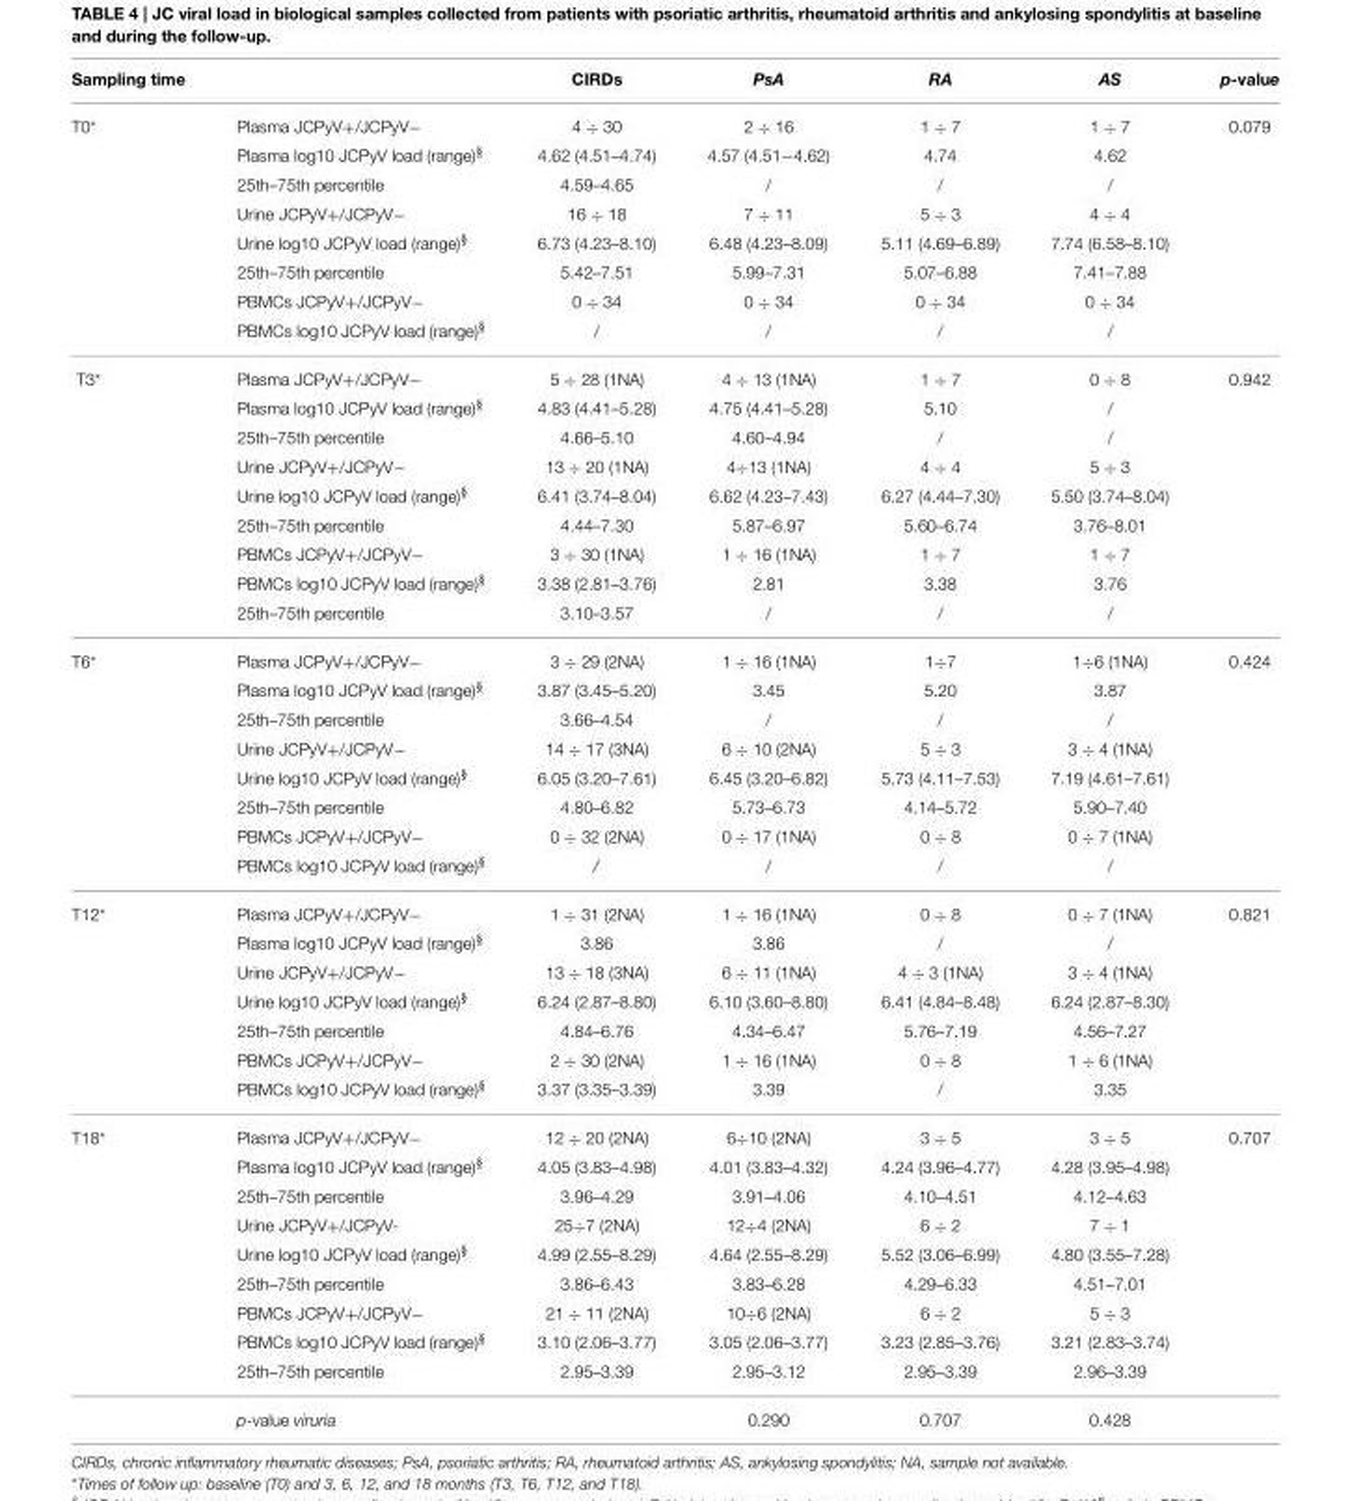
<table><thead><tr><td>Sampling time</td><td></td><td>CIRDs</td><td>PsA</td><td>RA</td><td>AS</td><td>p-value</td></tr></thead><tbody><tr><td rowspan="8">T0*</td><td>Plasma JCPyV+/JCPyV−</td><td>4 ÷ 30</td><td>2 ÷ 16</td><td>1 ÷ 7</td><td>1 ÷ 7</td><td>0.079</td></tr><tr><td>Plasma log10 JCPyV load (range)<sup>§</sup></td><td>4.62 (4.51–4.74)</td><td>4.57 (4.51−4.62)</td><td>4.74</td><td>4.62</td><td></td></tr><tr><td>25th–75th percentile</td><td>4.59–4.65</td><td>/</td><td>/</td><td>/</td><td></td></tr><tr><td>Urine JCPyV+/JCPyV−</td><td>16 ÷ 18</td><td>7 ÷ 11</td><td>5 ÷ 3</td><td>4 ÷ 4</td><td></td></tr><tr><td>Urine log10 JCPyV load (range)<sup>§</sup></td><td>6.73 (4.23–8.10)</td><td>6.48 (4.23–8.09)</td><td>5.11 (4.69–6.89)</td><td>7.74 (6.58–8.10)</td><td></td></tr><tr><td>25th–75th percentile</td><td>5.42–7.51</td><td>5.99–7.31</td><td>5.07–6.88</td><td>7.41–7.88</td><td></td></tr><tr><td>PBMCs JCPyV+/JCPyV−</td><td>0 ÷ 34</td><td>0 ÷ 34</td><td>0 ÷ 34</td><td>0 ÷ 34</td><td></td></tr><tr><td>PBMCs log10 JCPyV load (range)<sup>§</sup></td><td>/</td><td>/</td><td>/</td><td>/</td><td></td></tr><tr><td rowspan="9">T3*</td><td>Plasma JCPyV+/JCPyV−</td><td>5 ÷ 28 (1NA)</td><td>4 ÷ 13 (1NA)</td><td>1 ÷ 7</td><td>0 ÷ 8</td><td>0.942</td></tr><tr><td>Plasma log10 JCPyV load (range)<sup>§</sup></td><td>4.83 (4.41–5.28)</td><td>4.75 (4.41–5.28)</td><td>5.10</td><td>/</td><td></td></tr><tr><td>25th–75th percentile</td><td>4.66–5.10</td><td>4.60–4.94</td><td>/</td><td>/</td><td></td></tr><tr><td>Urine JCPyV+/JCPyV−</td><td>13 ÷ 20 (1NA)</td><td>4÷13 (1NA)</td><td>4 ÷ 4</td><td>5 ÷ 3</td><td></td></tr><tr><td>Urine log10 JCPyV load (range)<sup>§</sup></td><td>6.41 (3.74–8.04)</td><td>6.62 (4.23–7.43)</td><td>6.27 (4.44–7.30)</td><td>5.50 (3.74–8.04)</td><td></td></tr><tr><td>25th–75th percentile</td><td>4.44–7.30</td><td>5.87–6.97</td><td>5.60–6.74</td><td>3.76–8.01</td><td></td></tr><tr><td>PBMCs JCPyV+/JCPyV−</td><td>3 ÷ 30 (1NA)</td><td>1 ÷ 16 (1NA)</td><td>1 ÷ 7</td><td>1 ÷ 7</td><td></td></tr><tr><td>PBMCs log10 JCPyV load (range)<sup>§</sup></td><td>3.38 (2.81–3.76)</td><td>2.81</td><td>3.38</td><td>3.76</td><td></td></tr><tr><td>25th–75th percentile</td><td>3.10–3.57</td><td>/</td><td>/</td><td>/</td><td></td></tr><tr><td rowspan="8">T6*</td><td>Plasma JCPyV+/JCPyV−</td><td>3 ÷ 29 (2NA)</td><td>1 ÷ 16 (1NA)</td><td>1÷7</td><td>1÷6 (1NA)</td><td>0.424</td></tr><tr><td>Plasma log10 JCPyV load (range)<sup>§</sup></td><td>3.87 (3.45–5.20)</td><td>3.45</td><td>5.20</td><td>3.87</td><td></td></tr><tr><td>25th–75th percentile</td><td>3.66–4.54</td><td>/</td><td>/</td><td>/</td><td></td></tr><tr><td>Urine JCPyV+/JCPyV−</td><td>14 ÷ 17 (3NA)</td><td>6 ÷ 10 (2NA)</td><td>5 ÷ 3</td><td>3 ÷ 4 (1NA)</td><td></td></tr><tr><td>Urine log10 JCPyV load (range)<sup>§</sup></td><td>6.05 (3.20–7.61)</td><td>6.45 (3.20–6.82)</td><td>5.73 (4.11–7.53)</td><td>7.19 (4.61–7.61)</td><td></td></tr><tr><td>25th–75th percentile</td><td>4.80–6.82</td><td>5.73–6.73</td><td>4.14–5.72</td><td>5.90–7.40</td><td></td></tr><tr><td>PBMCs JCPyV+/JCPyV−</td><td>0 ÷ 32 (2NA)</td><td>0 ÷ 17 (1NA)</td><td>0 ÷ 8</td><td>0 ÷ 7 (1NA)</td><td></td></tr><tr><td>PBMCs log10 JCPyV load (range)<sup>§</sup></td><td>/</td><td>/</td><td>/</td><td>/</td><td></td></tr><tr><td rowspan="7">T12*</td><td>Plasma JCPyV+/JCPyV−</td><td>1 ÷ 31 (2NA)</td><td>1 ÷ 16 (1NA)</td><td>0 ÷ 8</td><td>0 ÷ 7 (1NA)</td><td>0.821</td></tr><tr><td>Plasma log10 JCPyV load (range)<sup>§</sup></td><td>3.86</td><td>3.86</td><td>/</td><td>/</td><td></td></tr><tr><td>Urine JCPyV+/JCPyV−</td><td>13 ÷ 18 (3NA)</td><td>6 ÷ 11 (1NA)</td><td>4 ÷ 3 (1NA)</td><td>3 ÷ 4 (1NA)</td><td></td></tr><tr><td>Urine log10 JCPyV load (range)<sup>§</sup></td><td>6.24 (2.87–8.80)</td><td>6.10 (3.60–8.80)</td><td>6.41 (4.84–8.48)</td><td>6.24 (2.87–8.30)</td><td></td></tr><tr><td>25th–75th percentile</td><td>4.84–6.76</td><td>4.34–6.47</td><td>5.76–7.19</td><td>4.56–7.27</td><td></td></tr><tr><td>PBMCs JCPyV+/JCPyV−</td><td>2 ÷ 30 (2NA)</td><td>1 ÷ 16 (1NA)</td><td>0 ÷ 8</td><td>1 ÷ 6 (1NA)</td><td></td></tr><tr><td>PBMCs log10 JCPyV load (range)<sup>§</sup></td><td>3.37 (3.35–3.39)</td><td>3.39</td><td>/</td><td>3.35</td><td></td></tr><tr><td rowspan="10">T18*</td><td>Plasma JCPyV+/JCPyV−</td><td>12 ÷ 20 (2NA)</td><td>6÷10 (2NA)</td><td>3 ÷ 5</td><td>3 ÷ 5</td><td>0.707</td></tr><tr><td>Plasma log10 JCPyV load (range)<sup>§</sup></td><td>4.05 (3.83–4.98)</td><td>4.01 (3.83–4.32)</td><td>4.24 (3.96–4.77)</td><td>4.28 (3.95–4.98)</td><td></td></tr><tr><td>25th–75th percentile</td><td>3.96–4.29</td><td>3.91–4.06</td><td>4.10–4.51</td><td>4.12–4.63</td><td></td></tr><tr><td>Urine JCPyV+/JCPyV-</td><td>25÷7 (2NA)</td><td>12÷4 (2NA)</td><td>6 ÷ 2</td><td>7 ÷ 1</td><td></td></tr><tr><td>Urine log10 JCPyV load (range)<sup>§</sup></td><td>4.99 (2.55–8.29)</td><td>4.64 (2.55–8.29)</td><td>5.52 (3.06–6.99)</td><td>4.80 (3.55–7.28)</td><td></td></tr><tr><td>25th–75th percentile</td><td>3.86–6.43</td><td>3.83–6.28</td><td>4.29–6.33</td><td>4.51–7.01</td><td></td></tr><tr><td>PBMCs JCPyV+/JCPyV−</td><td>21 ÷ 11 (2NA)</td><td>10÷6 (2NA)</td><td>6 ÷ 2</td><td>5 ÷ 3</td><td></td></tr><tr><td>PBMCs log10 JCPyV load (range)<sup>§</sup></td><td>3.10 (2.06–3.77)</td><td>3.05 (2.06–3.77)</td><td>3.23 (2.85–3.76)</td><td>3.21 (2.83–3.74)</td><td></td></tr><tr><td>25th–75th percentile</td><td>2.95–3.39</td><td>2.95–3.12</td><td>2.95–3.39</td><td>2.96–3.39</td><td></td></tr><tr><td>p-value viruria</td><td></td><td>0.290</td><td>0.707</td><td>0.428</td><td></td></tr></tbody></table>